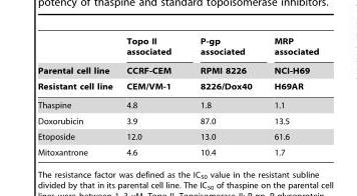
<table><thead><tr><td rowspan="3">Parental cell line Resistant cell line</td><td rowspan="3">Topo II associated CCRF-CEM CEM/VM-1</td><td rowspan="3">P-gp associated RPMI 8226 8226/Dox40</td><td rowspan="3">MRP associated NCI-H69 H69AR</td></tr><tr></tr><tr></tr></thead><tbody><tr><td>Thaspine</td><td>4.8</td><td>1.8</td><td>1.1</td></tr><tr><td>Doxorubicin</td><td>3.9</td><td>87.0</td><td>13.5</td></tr><tr><td>Etoposide</td><td>12.0</td><td>13.0</td><td>61.6</td></tr><tr><td>Mitoxantrone</td><td>4.6</td><td>10.4</td><td>1.7</td></tr></tbody></table>